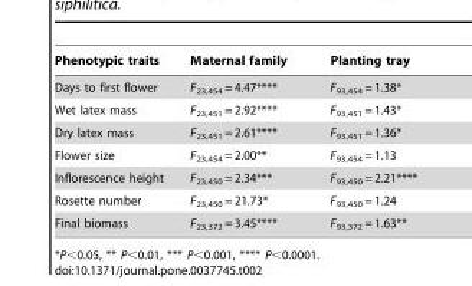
<table><thead><tr><td>Phenotypic traits</td><td>Maternal family</td><td>Planting tray</td></tr></thead><tbody><tr><td>Days to first flower</td><td>F<sub>23,454</sub> = 4.47****</td><td>F<sub>93,454</sub> = 1.38*</td></tr><tr><td>Wet latex mass</td><td>F<sub>23,451</sub> = 2.92****</td><td>F<sub>93,451</sub> = 1.43*</td></tr><tr><td>Dry latex mass</td><td>F<sub>23,451</sub> = 2.61****</td><td>F<sub>93,451</sub> = 1.36*</td></tr><tr><td>Flower size</td><td>F<sub>23,454</sub> = 2.00**</td><td>F<sub>93,454</sub> = 1.13</td></tr><tr><td>Inflorescence height</td><td>F<sub>23,450</sub> = 2.34***</td><td>F<sub>93,450</sub> = 2.21****</td></tr><tr><td>Rosette number</td><td>F<sub>23,450</sub> = 21.73*</td><td>F<sub>93,450</sub> = 1.24</td></tr><tr><td>Final biomass</td><td>F<sub>23,372</sub> = 3.45****</td><td>F<sub>93,372</sub> = 1.63**</td></tr></tbody></table>